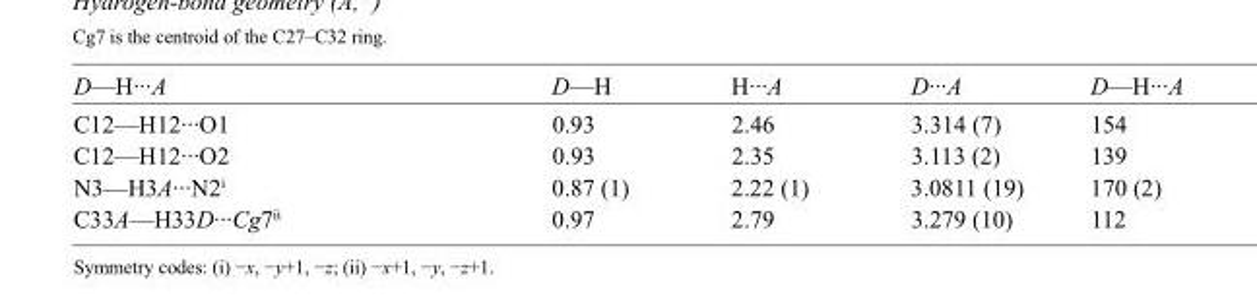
<table><tbody><tr><td>D—H···A</td><td>D—H</td><td>H···A</td><td>D···A</td><td>D—H···A</td></tr><tr><td>C12—H12···O1</td><td>0.93</td><td>2.46</td><td>3.314 (7)</td><td>154</td></tr><tr><td>C12—H12···O2</td><td>0.93</td><td>2.35</td><td>3.113 (2)</td><td>139</td></tr><tr><td>N3—H3A···N2<sup>i</sup></td><td>0.87 (1)</td><td>2.22 (1)</td><td>3.0811 (19)</td><td>170 (2)</td></tr><tr><td>C33A—H33D···Cg7<sup>ii</sup></td><td>0.97</td><td>2.79</td><td>3.279 (10)</td><td>112</td></tr></tbody></table>